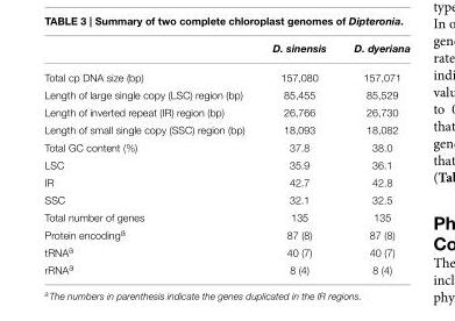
<table><thead><tr><td></td><td>D. sinensis</td><td>D. dyeriana</td></tr></thead><tbody><tr><td>Total cp DNA size (bp)</td><td>157,080</td><td>157,071</td></tr><tr><td>Length of large single copy (LSC) region (bp)</td><td>85,455</td><td>85,529</td></tr><tr><td>Length of inverted repeat (IR) region (bp)</td><td>26,766</td><td>26,730</td></tr><tr><td>Length of small single copy (SSC) region (bp)</td><td>18,093</td><td>18,082</td></tr><tr><td>Total GC content (%)</td><td>37.8</td><td>38.0</td></tr><tr><td>LSC</td><td>35.9</td><td>36.1</td></tr><tr><td>IR</td><td>42.7</td><td>42.8</td></tr><tr><td>SSC</td><td>32.1</td><td>32.5</td></tr><tr><td>Total number of genes</td><td>135</td><td>135</td></tr><tr><td>Protein encodinga</td><td>87 (8)</td><td>87 (8)</td></tr><tr><td>tRNAa</td><td>40 (7)</td><td>40 (7)</td></tr><tr><td>rRNA<sup>a</sup></td><td>8 (4)</td><td>8 (4)</td></tr></tbody></table>